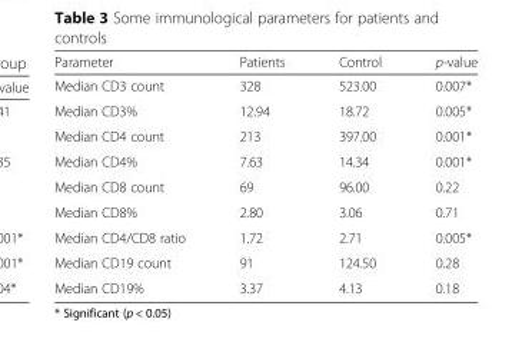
<table><thead><tr><td>Parameter</td><td>Patients</td><td>Control</td><td>p-value</td></tr></thead><tbody><tr><td>Median CD3 count</td><td>328</td><td>523.00</td><td>0.007*</td></tr><tr><td>Median CD3%</td><td>12.94</td><td>18.72</td><td>0.005*</td></tr><tr><td>Median CD4 count</td><td>213</td><td>397.00</td><td>0.001*</td></tr><tr><td>Median CD4%</td><td>7.63</td><td>14.34</td><td>0.001*</td></tr><tr><td>Median CD8 count</td><td>69</td><td>96.00</td><td>0.22</td></tr><tr><td>Median CD8%</td><td>2.80</td><td>3.06</td><td>0.71</td></tr><tr><td>Median CD4/CD8 ratio</td><td>1.72</td><td>2.71</td><td>0.005*</td></tr><tr><td>Median CD19 count</td><td>91</td><td>124.50</td><td>0.28</td></tr><tr><td>Median CD19%</td><td>3.37</td><td>4.13</td><td>0.18</td></tr></tbody></table>